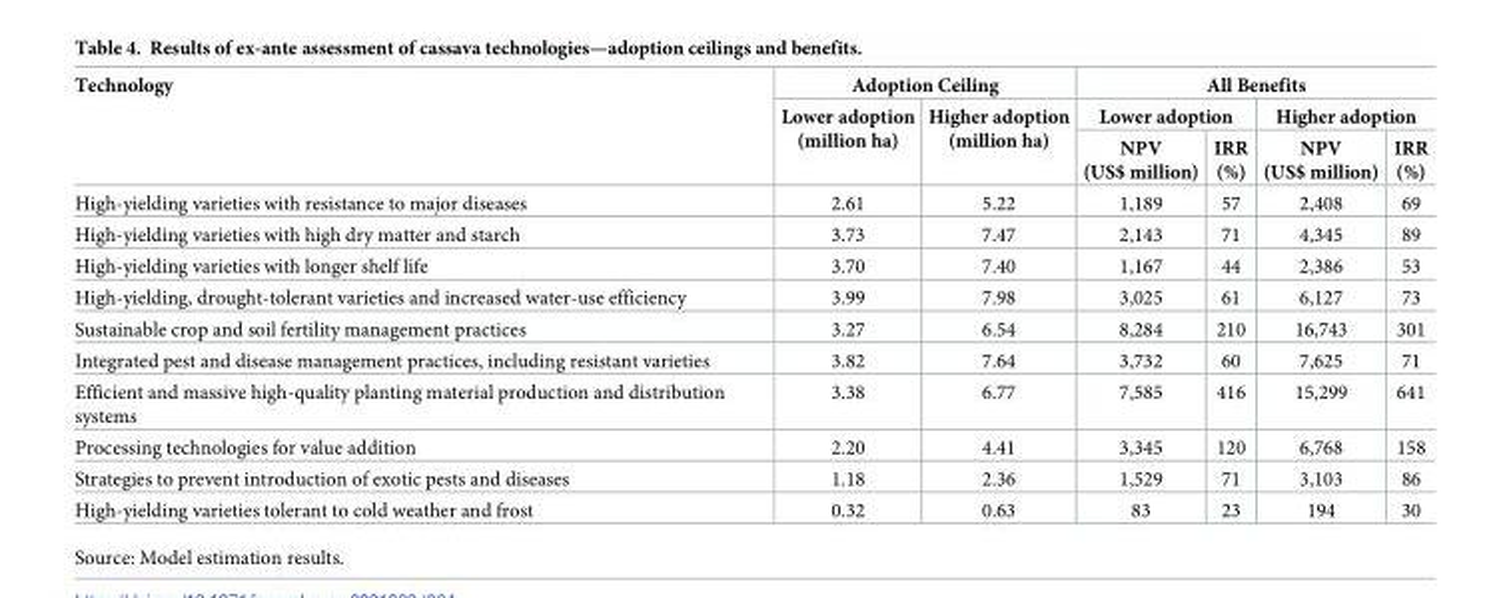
<table><thead><tr><td rowspan="3">Technology</td><td colspan="2">Adoption Ceiling</td><td colspan="4">All Benefits</td></tr><tr><td rowspan="2">Lower adoption (million ha)</td><td rowspan="2">Higher adoption (million ha)</td><td colspan="2">Lower adoption</td><td colspan="2">Higher adoption</td></tr><tr><td>NPV (US$ million)</td><td>IRR (%)</td><td>NPV (US$ million)</td><td>IRR (%)</td></tr></thead><tbody><tr><td>High-yielding varieties with resistance to major diseases</td><td>2.61</td><td>5.22</td><td>1,189</td><td>57</td><td>2,408</td><td>69</td></tr><tr><td>High-yielding varieties with high dry matter and starch</td><td>3.73</td><td>7.47</td><td>2,143</td><td>71</td><td>4,345</td><td>89</td></tr><tr><td>High-yielding varieties with longer shelf life</td><td>3.70</td><td>7.40</td><td>1,167</td><td>44</td><td>2,386</td><td>53</td></tr><tr><td>High-yielding, drought-tolerant varieties and increased water-use efficiency</td><td>3.99</td><td>7.98</td><td>3,025</td><td>61</td><td>6,127</td><td>73</td></tr><tr><td>Sustainable crop and soil fertility management practices</td><td>3.27</td><td>6.54</td><td>8,284</td><td>210</td><td>16,743</td><td>301</td></tr><tr><td>Integrated pest and disease management practices, including resistant varieties</td><td>3.82</td><td>7.64</td><td>3,732</td><td>60</td><td>7,625</td><td>71</td></tr><tr><td>Efficient and massive high-quality planting material production and distribution systems</td><td>3.38</td><td>6.77</td><td>7,585</td><td>416</td><td>15,299</td><td>641</td></tr><tr><td>Processing technologies for value addition</td><td>2.20</td><td>4.41</td><td>3,345</td><td>120</td><td>6,768</td><td>158</td></tr><tr><td>Strategies to prevent introduction of exotic pests and diseases</td><td>1.18</td><td>2.36</td><td>1,529</td><td>71</td><td>3,103</td><td>86</td></tr><tr><td>High-yielding varieties tolerant to cold weather and frost</td><td>0.32</td><td>0.63</td><td>83</td><td>23</td><td>194</td><td>30</td></tr></tbody></table>